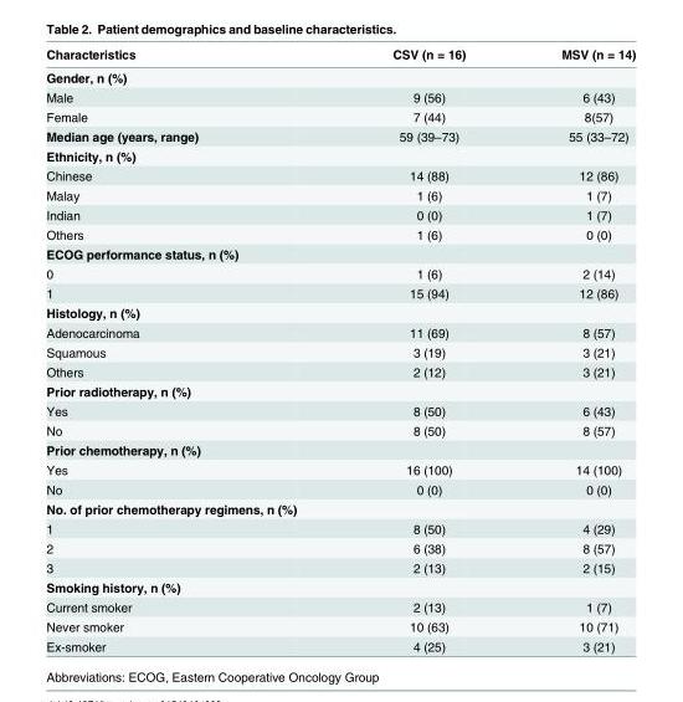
<table><thead><tr><td>Characteristics</td><td>CSV (n = 16)</td><td>MSV (n = 14)</td></tr></thead><tbody><tr><td colspan="3">Gender, n (%)</td></tr><tr><td>Male</td><td>9 (56)</td><td>6 (43)</td></tr><tr><td>Female</td><td>7 (44)</td><td>8(57)</td></tr><tr><td>Median age (years, range)</td><td>59 (39–73)</td><td>55 (33–72)</td></tr><tr><td colspan="3">Ethnicity, n (%)</td></tr><tr><td>Chinese</td><td>14 (88)</td><td>12 (86)</td></tr><tr><td>Malay</td><td>1 (6)</td><td>1 (7)</td></tr><tr><td>Indian</td><td>0 (0)</td><td>1 (7)</td></tr><tr><td>Others</td><td>1 (6)</td><td>0 (0)</td></tr><tr><td colspan="3">ECOG performance status, n (%)</td></tr><tr><td>0</td><td>1 (6)</td><td>2 (14)</td></tr><tr><td>1</td><td>15 (94)</td><td>12 (86)</td></tr><tr><td colspan="3">Histology, n (%)</td></tr><tr><td>Adenocarcinoma</td><td>11 (69)</td><td>8 (57)</td></tr><tr><td>Squamous</td><td>3 (19)</td><td>3 (21)</td></tr><tr><td>Others</td><td>2 (12)</td><td>3 (21)</td></tr><tr><td colspan="3">Prior radiotherapy, n (%)</td></tr><tr><td>Yes</td><td>8 (50)</td><td>6 (43)</td></tr><tr><td>No</td><td>8 (50)</td><td>8 (57)</td></tr><tr><td colspan="3">Prior chemotherapy, n (%)</td></tr><tr><td>Yes</td><td>16 (100)</td><td>14 (100)</td></tr><tr><td>No</td><td>0 (0)</td><td>0 (0)</td></tr><tr><td colspan="3">No. of prior chemotherapy regimens, n (%)</td></tr><tr><td>1</td><td>8 (50)</td><td>4 (29)</td></tr><tr><td>2</td><td>6 (38)</td><td>8 (57)</td></tr><tr><td>3</td><td>2 (13)</td><td>2 (15)</td></tr><tr><td colspan="3">Smoking history, n (%)</td></tr><tr><td>Current smoker</td><td>2 (13)</td><td>1 (7)</td></tr><tr><td>Never smoker</td><td>10 (63)</td><td>10 (71)</td></tr><tr><td>Ex-smoker</td><td>4 (25)</td><td>3 (21)</td></tr></tbody></table>